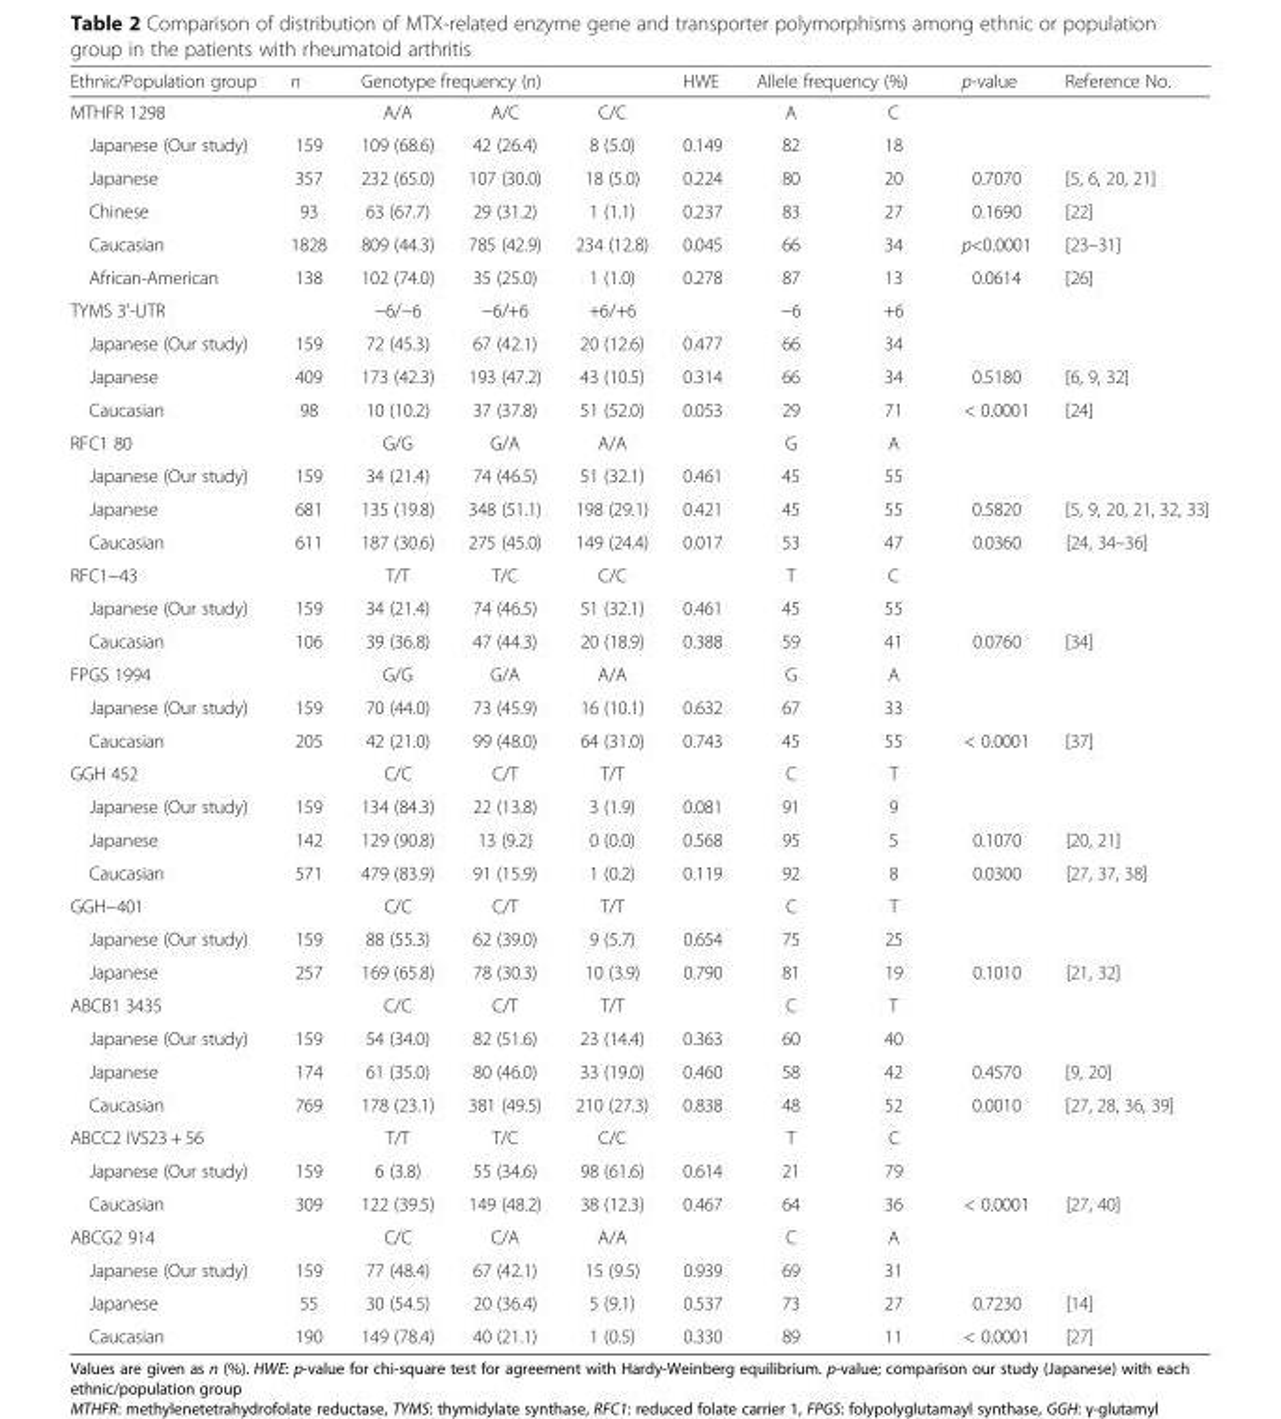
<table><thead><tr><td rowspan="2">Ethnic/Population group MTHFR 1298</td><td rowspan="2">n</td><td colspan="3">Genotype frequency (n)</td><td rowspan="2">HWE</td><td colspan="2">Allele frequency (%)</td><td rowspan="2">p-value</td><td rowspan="2">Reference No.</td></tr><tr><td>A/A</td><td>A/C</td><td>C/C</td><td>A</td><td>C</td></tr></thead><tbody><tr><td>Japanese (Our study)</td><td>159</td><td>109 (68.6)</td><td>42 (26.4)</td><td>8 (5.0)</td><td>0.149</td><td>82</td><td>18</td><td></td><td></td></tr><tr><td>Japanese</td><td>357</td><td>232 (65.0)</td><td>107 (30.0)</td><td>18 (5.0)</td><td>0.224</td><td>80</td><td>20</td><td>0.7070</td><td>[5, 6, 20, 21]</td></tr><tr><td>Chinese</td><td>93</td><td>63 (67.7)</td><td>29 (31.2)</td><td>1 (1.1)</td><td>0.237</td><td>83</td><td>27</td><td>0.1690</td><td>[22]</td></tr><tr><td>Caucasian</td><td>1828</td><td>809 (44.3)</td><td>785 (42.9)</td><td>234 (12.8)</td><td>0.045</td><td>66</td><td>34</td><td>p&lt;0.0001</td><td>[23–31]</td></tr><tr><td>African-American</td><td>138</td><td>102 (74.0)</td><td>35 (25.0)</td><td>1 (1.0)</td><td>0.278</td><td>87</td><td>13</td><td>0.0614</td><td>[26]</td></tr><tr><td>TYMS 3&#x27;-UTR</td><td></td><td>−6/−6</td><td>−6/+6</td><td>+6/+6</td><td></td><td>−6</td><td>+6</td><td></td><td></td></tr><tr><td>Japanese (Our study)</td><td>159</td><td>72 (45.3)</td><td>67 (42.1)</td><td>20 (12.6)</td><td>0.477</td><td>66</td><td>34</td><td></td><td></td></tr><tr><td>Japanese</td><td>409</td><td>173 (42.3)</td><td>193 (47.2)</td><td>43 (10.5)</td><td>0.314</td><td>66</td><td>34</td><td>0.5180</td><td>[6, 9, 32]</td></tr><tr><td>Caucasian</td><td>98</td><td>10 (10.2)</td><td>37 (37.8)</td><td>51 (52.0)</td><td>0.053</td><td>29</td><td>71</td><td>&lt; 0.0001</td><td>[24]</td></tr><tr><td>RFC1 80</td><td></td><td>G/G</td><td>G/A</td><td>A/A</td><td></td><td>G</td><td>A</td><td></td><td></td></tr><tr><td>Japanese (Our study)</td><td>159</td><td>34 (21.4)</td><td>74 (46.5)</td><td>51 (32.1)</td><td>0.461</td><td>45</td><td>55</td><td></td><td></td></tr><tr><td>Japanese</td><td>681</td><td>135 (19.8)</td><td>348 (51.1)</td><td>198 (29.1)</td><td>0.421</td><td>45</td><td>55</td><td>0.5820</td><td>[5, 9, 20, 21, 32, 33]</td></tr><tr><td>Caucasian</td><td>611</td><td>187 (30.6)</td><td>275 (45.0)</td><td>149 (24.4)</td><td>0.017</td><td>53</td><td>47</td><td>0.0360</td><td>[24, 34–36]</td></tr><tr><td>RFC1−43</td><td></td><td>T/T</td><td>T/C</td><td>C/C</td><td></td><td>T</td><td>C</td><td></td><td></td></tr><tr><td>Japanese (Our study)</td><td>159</td><td>34 (21.4)</td><td>74 (46.5)</td><td>51 (32.1)</td><td>0.461</td><td>45</td><td>55</td><td></td><td></td></tr><tr><td>Caucasian</td><td>106</td><td>39 (36.8)</td><td>47 (44.3)</td><td>20 (18.9)</td><td>0.388</td><td>59</td><td>41</td><td>0.0760</td><td>[34]</td></tr><tr><td>FPGS 1994</td><td></td><td>G/G</td><td>G/A</td><td>A/A</td><td></td><td>G</td><td>A</td><td></td><td></td></tr><tr><td>Japanese (Our study)</td><td>159</td><td>70 (44.0)</td><td>73 (45.9)</td><td>16 (10.1)</td><td>0.632</td><td>67</td><td>33</td><td></td><td></td></tr><tr><td>Caucasian</td><td>205</td><td>42 (21.0)</td><td>99 (48.0)</td><td>64 (31.0)</td><td>0.743</td><td>45</td><td>55</td><td>&lt; 0.0001</td><td>[37]</td></tr><tr><td>GGH 452</td><td></td><td>C/C</td><td>C/T</td><td>T/T</td><td></td><td>C</td><td>T</td><td></td><td></td></tr><tr><td>Japanese (Our study)</td><td>159</td><td>134 (84.3)</td><td>22 (13.8)</td><td>3 (1.9)</td><td>0.081</td><td>91</td><td>9</td><td></td><td></td></tr><tr><td>Japanese</td><td>142</td><td>129 (90.8)</td><td>13 (9.2)</td><td>0 (0.0)</td><td>0.568</td><td>95</td><td>5</td><td>0.1070</td><td>[20, 21]</td></tr><tr><td>Caucasian</td><td>571</td><td>479 (83.9)</td><td>91 (15.9)</td><td>1 (0.2)</td><td>0.119</td><td>92</td><td>8</td><td>0.0300</td><td>[27, 37, 38]</td></tr><tr><td>GGH−401</td><td></td><td>C/C</td><td>C/T</td><td>T/T</td><td></td><td>C</td><td>T</td><td></td><td></td></tr><tr><td>Japanese (Our study)</td><td>159</td><td>88 (55.3)</td><td>62 (39.0)</td><td>9 (5.7)</td><td>0.654</td><td>75</td><td>25</td><td></td><td></td></tr><tr><td>Japanese</td><td>257</td><td>169 (65.8)</td><td>78 (30.3)</td><td>10 (3.9)</td><td>0.790</td><td>81</td><td>19</td><td>0.1010</td><td>[21, 32]</td></tr><tr><td>ABCB1 3435</td><td></td><td>C/C</td><td>C/T</td><td>T/T</td><td></td><td>C</td><td>T</td><td></td><td></td></tr><tr><td>Japanese (Our study)</td><td>159</td><td>54 (34.0)</td><td>82 (51.6)</td><td>23 (14.4)</td><td>0.363</td><td>60</td><td>40</td><td></td><td></td></tr><tr><td>Japanese</td><td>174</td><td>61 (35.0)</td><td>80 (46.0)</td><td>33 (19.0)</td><td>0.460</td><td>58</td><td>42</td><td>0.4570</td><td>[9, 20]</td></tr><tr><td>Caucasian</td><td>769</td><td>178 (23.1)</td><td>381 (49.5)</td><td>210 (27.3)</td><td>0.838</td><td>48</td><td>52</td><td>0.0010</td><td>[27, 28, 36, 39]</td></tr><tr><td>ABCC2 IVS23 + 56</td><td></td><td>T/T</td><td>T/C</td><td>C/C</td><td></td><td>T</td><td>C</td><td></td><td></td></tr><tr><td>Japanese (Our study)</td><td>159</td><td>6 (3.8)</td><td>55 (34.6)</td><td>98 (61.6)</td><td>0.614</td><td>21</td><td>79</td><td></td><td></td></tr><tr><td>Caucasian</td><td>309</td><td>122 (39.5)</td><td>149 (48.2)</td><td>38 (12.3)</td><td>0.467</td><td>64</td><td>36</td><td>&lt; 0.0001</td><td>[27, 40]</td></tr><tr><td>ABCG2 914</td><td></td><td>C/C</td><td>C/A</td><td>A/A</td><td></td><td>C</td><td>A</td><td></td><td></td></tr><tr><td>Japanese (Our study)</td><td>159</td><td>77 (48.4)</td><td>67 (42.1)</td><td>15 (9.5)</td><td>0.939</td><td>69</td><td>31</td><td></td><td></td></tr><tr><td>Japanese</td><td>55</td><td>30 (54.5)</td><td>20 (36.4)</td><td>5 (9.1)</td><td>0.537</td><td>73</td><td>27</td><td>0.7230</td><td>[14]</td></tr><tr><td>Caucasian</td><td>190</td><td>149 (78.4)</td><td>40 (21.1)</td><td>1 (0.5)</td><td>0.330</td><td>89</td><td>11</td><td>&lt; 0.0001</td><td>[27]</td></tr></tbody></table>